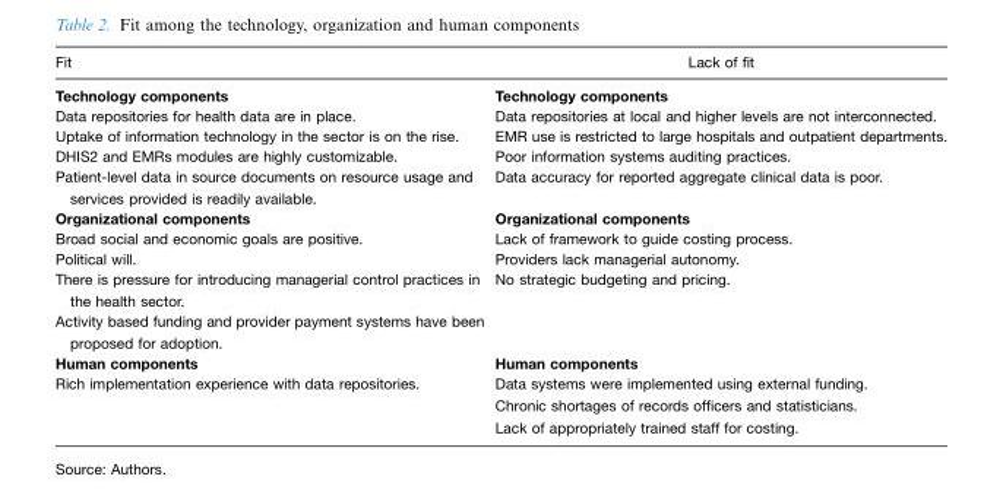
<table><thead><tr><td>Fit</td><td>Lack of fit</td></tr></thead><tbody><tr><td>Technology components</td><td>Technology components</td></tr><tr><td>Data repositories for health data are in place.</td><td>Data repositories at local and higher levels are not interconnected.</td></tr><tr><td>Uptake of information technology in the sector is on the rise.</td><td>EMR use is restricted to large hospitals and outpatient departments.</td></tr><tr><td>DHIS2 and EMRs modules are highly customizable.</td><td>Poor information systems auditing practices.</td></tr><tr><td>Patient-level data in source documents on resource usage and services provided is readily available.</td><td>Data accuracy for reported aggregate clinical data is poor.</td></tr><tr><td>Organizational components</td><td>Organizational components</td></tr><tr><td>Broad social and economic goals are positive.</td><td>Lack of framework to guide costing process.</td></tr><tr><td>Political will.</td><td>Providers lack managerial autonomy.</td></tr><tr><td>There is pressure for introducing managerial control practices in the health sector.</td><td>No strategic budgeting and pricing.</td></tr><tr><td colspan="2">Activity based funding and provider payment systems have been proposed for adoption.</td></tr><tr><td>Human components</td><td>Human components</td></tr><tr><td rowspan="3">Rich implementation experience with data repositories.</td><td>Data systems were implemented using external funding.</td></tr><tr><td>Chronic shortages of records officers and statisticians.</td></tr><tr><td>Lack of appropriately trained staff for costing.</td></tr></tbody></table>